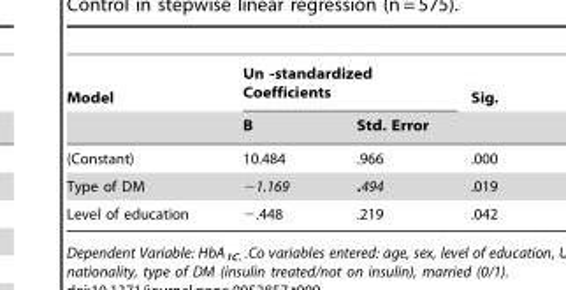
<table><thead><tr><td rowspan="2">Model</td><td colspan="2">Un -standardized Coefficients</td><td rowspan="2">Sig.</td></tr><tr><td>B</td><td>Std. Error</td></tr></thead><tbody><tr><td>(Constant)</td><td>10.484</td><td>.966</td><td>.000</td></tr><tr><td>Type of DM</td><td>−1.169</td><td>.494</td><td>.019</td></tr><tr><td>Level of education</td><td>−.448</td><td>.219</td><td>.042</td></tr></tbody></table>